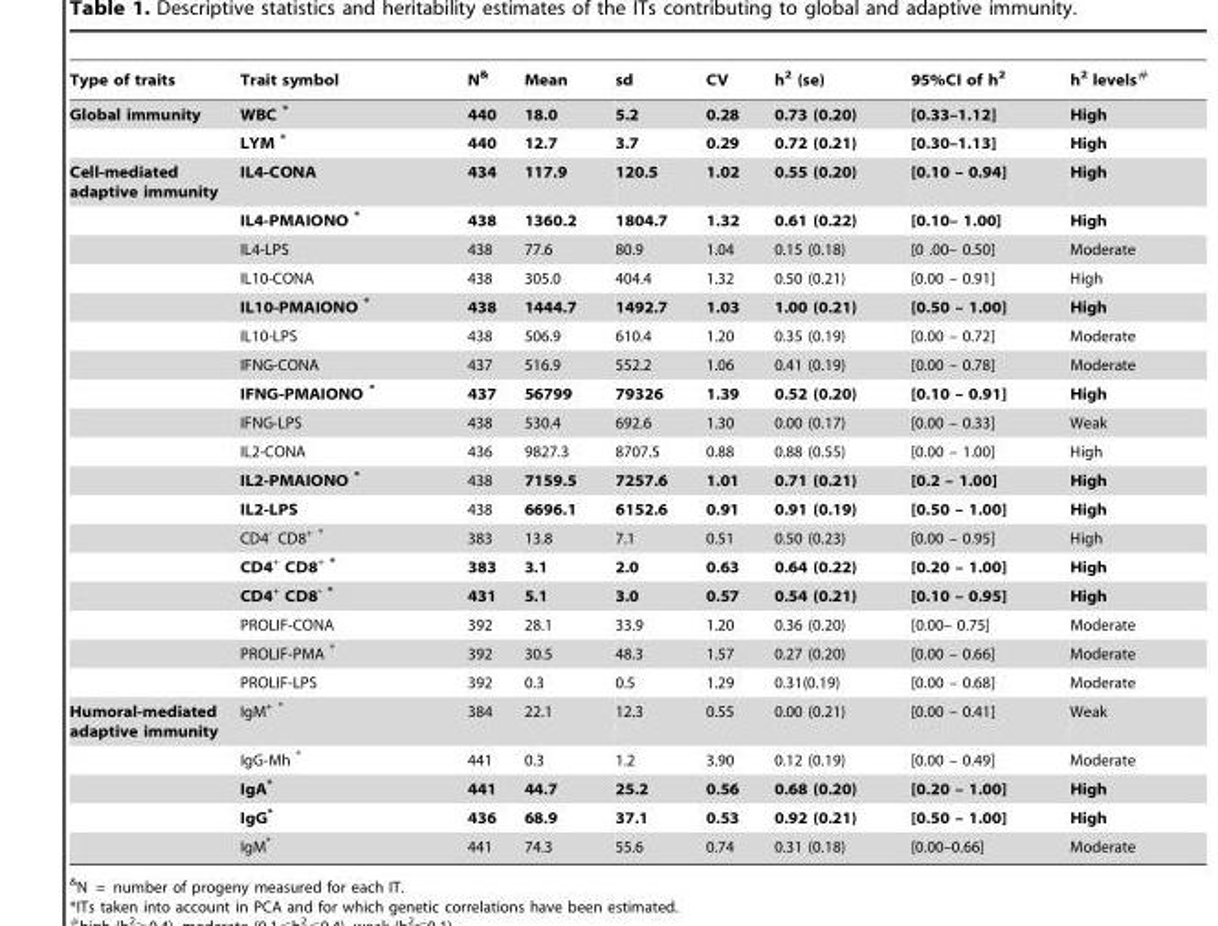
<table><thead><tr><td>Type of traits</td><td>Trait symbol</td><td>N&amp;</td><td>Mean</td><td>sd</td><td>CV</td><td>h<sup>2</sup> (se)</td><td>95%CI of h<sup>2</sup></td><td>h<sup>2</sup> levels#</td></tr></thead><tbody><tr><td rowspan="2">Global immunity</td><td>WBC *</td><td>440</td><td>18.0</td><td>5.2</td><td>0.28</td><td>0.73 (0.20)</td><td>[0.33–1.12]</td><td>High</td></tr><tr><td>LYM *</td><td>440</td><td>12.7</td><td>3.7</td><td>0.29</td><td>0.72 (0.21)</td><td>[0.30–1.13]</td><td>High</td></tr><tr><td rowspan="18">Cell-mediated adaptive immunity</td><td>IL4-CONA</td><td>434</td><td>117.9</td><td>120.5</td><td>1.02</td><td>0.55 (0.20)</td><td>[0.10 – 0.94]</td><td>High</td></tr><tr><td>IL4-PMAIONO *</td><td>438</td><td>1360.2</td><td>1804.7</td><td>1.32</td><td>0.61 (0.22)</td><td>[0.10– 1.00]</td><td>High</td></tr><tr><td>IL4-LPS</td><td>438</td><td>77.6</td><td>80.9</td><td>1.04</td><td>0.15 (0.18)</td><td>[0 .00– 0.50]</td><td>Moderate</td></tr><tr><td>IL10-CONA</td><td>438</td><td>305.0</td><td>404.4</td><td>1.32</td><td>0.50 (0.21)</td><td>[0.00 – 0.91]</td><td>High</td></tr><tr><td>IL10-PMAIONO *</td><td>438</td><td>1444.7</td><td>1492.7</td><td>1.03</td><td>1.00 (0.21)</td><td>[0.50 – 1.00]</td><td>High</td></tr><tr><td>IL10-LPS</td><td>438</td><td>506.9</td><td>610.4</td><td>1.20</td><td>0.35 (0.19)</td><td>[0.00 – 0.72]</td><td>Moderate</td></tr><tr><td>IFNG-CONA</td><td>437</td><td>516.9</td><td>552.2</td><td>1.06</td><td>0.41 (0.19)</td><td>[0.00 – 0.78]</td><td>Moderate</td></tr><tr><td>IFNG-PMAIONO *</td><td>437</td><td>56799</td><td>79326</td><td>1.39</td><td>0.52 (0.20)</td><td>[0.10 – 0.91]</td><td>High</td></tr><tr><td>IFNG-LPS</td><td>438</td><td>530.4</td><td>692.6</td><td>1.30</td><td>0.00 (0.17)</td><td>[0.00 – 0.33]</td><td>Weak</td></tr><tr><td>IL2-CONA</td><td>436</td><td>9827.3</td><td>8707.5</td><td>0.88</td><td>0.88 (0.55)</td><td>[0.00 – 1.00]</td><td>High</td></tr><tr><td>IL2-PMAIONO *</td><td>438</td><td>7159.5</td><td>7257.6</td><td>1.01</td><td>0.71 (0.21)</td><td>[0.2 – 1.00]</td><td>High</td></tr><tr><td>IL2-LPS</td><td>438</td><td>6696.1</td><td>6152.6</td><td>0.91</td><td>0.91 (0.19)</td><td>[0.50 – 1.00]</td><td>High</td></tr><tr><td>CD4<sup>-</sup> CD8<sup>+</sup> *</td><td>383</td><td>13.8</td><td>7.1</td><td>0.51</td><td>0.50 (0.23)</td><td>[0.00 – 0.95]</td><td>High</td></tr><tr><td>CD4<sup>+</sup> CD8<sup>+</sup> *</td><td>383</td><td>3.1</td><td>2.0</td><td>0.63</td><td>0.64 (0.22)</td><td>[0.20 – 1.00]</td><td>High</td></tr><tr><td>CD4<sup>+</sup> CD8<sup>-</sup> *</td><td>431</td><td>5.1</td><td>3.0</td><td>0.57</td><td>0.54 (0.21)</td><td>[0.10 – 0.95]</td><td>High</td></tr><tr><td>PROLIF-CONA</td><td>392</td><td>28.1</td><td>33.9</td><td>1.20</td><td>0.36 (0.20)</td><td>[0.00– 0.75]</td><td>Moderate</td></tr><tr><td>PROLIF-PMA *</td><td>392</td><td>30.5</td><td>48.3</td><td>1.57</td><td>0.27 (0.20)</td><td>[0.00 – 0.66]</td><td>Moderate</td></tr><tr><td>PROLIF-LPS</td><td>392</td><td>0.3</td><td>0.5</td><td>1.29</td><td>0.31(0.19)</td><td>[0.00 – 0.68]</td><td>Moderate</td></tr><tr><td rowspan="5">Humoral-mediated adaptive immunity</td><td>IgM<sup>+</sup> *</td><td>384</td><td>22.1</td><td>12.3</td><td>0.55</td><td>0.00 (0.21)</td><td>[0.00 – 0.41]</td><td>Weak</td></tr><tr><td>IgG-Mh *</td><td>441</td><td>0.3</td><td>1.2</td><td>3.90</td><td>0.12 (0.19)</td><td>[0.00 – 0.49]</td><td>Moderate</td></tr><tr><td>IgA*</td><td>441</td><td>44.7</td><td>25.2</td><td>0.56</td><td>0.68 (0.20)</td><td>[0.20 – 1.00]</td><td>High</td></tr><tr><td>IgG*</td><td>436</td><td>68.9</td><td>37.1</td><td>0.53</td><td>0.92 (0.21)</td><td>[0.50 – 1.00]</td><td>High</td></tr><tr><td>IgM*</td><td>441</td><td>74.3</td><td>55.6</td><td>0.74</td><td>0.31 (0.18)</td><td>[0.00–0.66]</td><td>Moderate</td></tr></tbody></table>